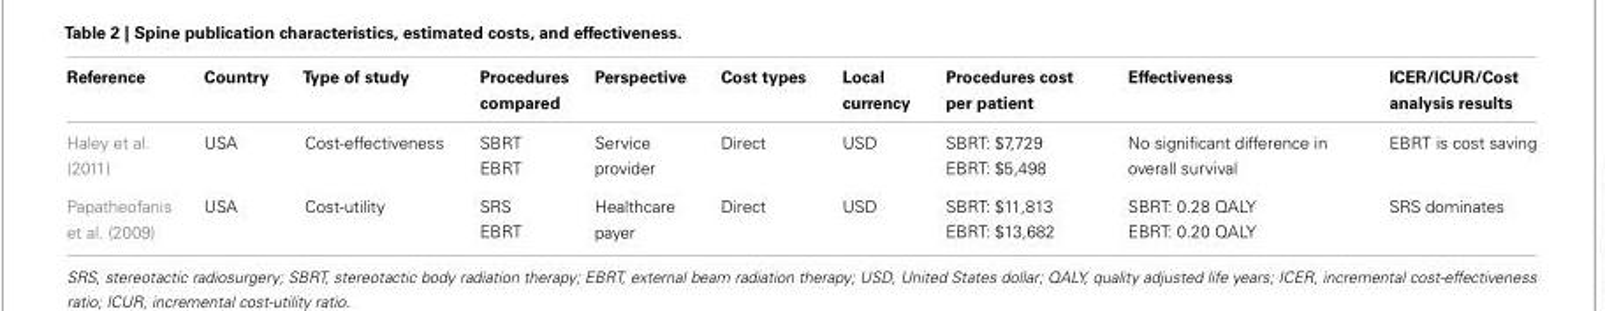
<table><thead><tr><td>Reference</td><td>Country</td><td>Type of study</td><td>Procedures compared</td><td>Perspective</td><td>Cost types</td><td>Local currency</td><td>Procedures cost per patient</td><td>Effectiveness</td><td>ICER/ICUR/Cost analysis results</td></tr></thead><tbody><tr><td>Haley et al. (2011)</td><td>USA</td><td>Cost-effectiveness</td><td>SBRT EBRT</td><td>Service provider</td><td>Direct</td><td>USD</td><td>SBRT: $7,729 EBRT: $5,498</td><td>No significant difference in overall survival</td><td>EBRT is cost saving</td></tr><tr><td>Papatheofanis et al. (2009)</td><td>USA</td><td>Cost-utility</td><td>SRS EBRT</td><td>Healthcare payer</td><td>Direct</td><td>USD</td><td>SBRT: $11,813 EBRT: $13,682</td><td>SBRT: 0.28 QALY EBRT: 0.20 QALY</td><td>SRS dominates</td></tr></tbody></table>